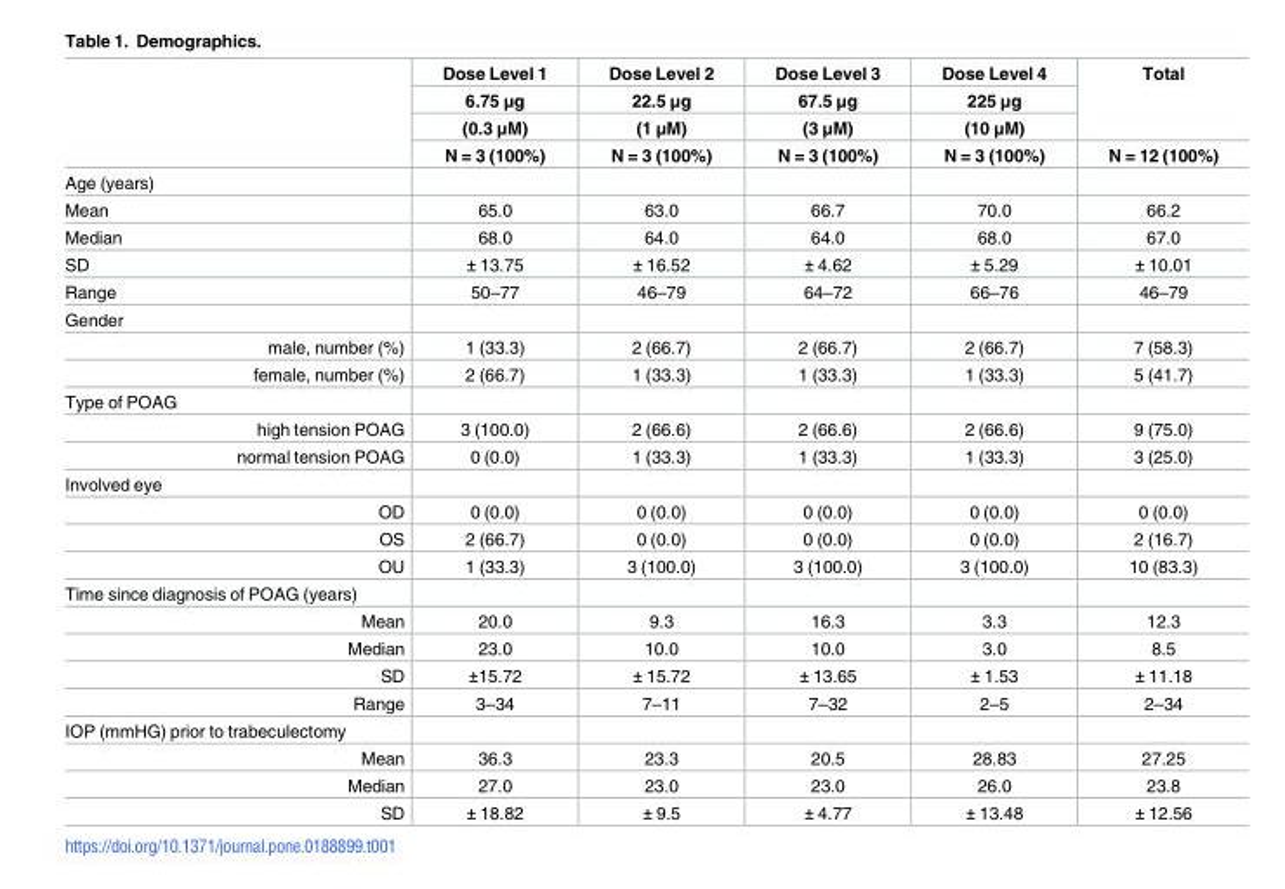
<table><thead><tr><td rowspan="4"></td><td rowspan="4">Dose Level 1 6.75 μg (0.3 μM) N = 3 (100%)</td><td rowspan="4">Dose Level 2 22.5 μg (1 μM) N = 3 (100%)</td><td rowspan="4">Dose Level 3 67.5 μg (3 μM) N = 3 (100%)</td><td rowspan="4">Dose Level 4 225 μg (10 μM) N = 3 (100%)</td><td rowspan="4">Total N = 12 (100%)</td></tr><tr></tr><tr></tr><tr></tr></thead><tbody><tr><td colspan="6">Age (years)</td></tr><tr><td>Mean</td><td>65.0</td><td>63.0</td><td>66.7</td><td>70.0</td><td>66.2</td></tr><tr><td>Median</td><td>68.0</td><td>64.0</td><td>64.0</td><td>68.0</td><td>67.0</td></tr><tr><td>SD</td><td>± 13.75</td><td>± 16.52</td><td>± 4.62</td><td>± 5.29</td><td>± 10.01</td></tr><tr><td>Range</td><td>50–77</td><td>46–79</td><td>64–72</td><td>66–76</td><td>46–79</td></tr><tr><td colspan="6">Gender</td></tr><tr><td>male, number (%)</td><td>1 (33.3)</td><td>2 (66.7)</td><td>2 (66.7)</td><td>2 (66.7)</td><td>7 (58.3)</td></tr><tr><td>female, number (%)</td><td>2 (66.7)</td><td>1 (33.3)</td><td>1 (33.3)</td><td>1 (33.3)</td><td>5 (41.7)</td></tr><tr><td colspan="6">Type of POAG</td></tr><tr><td>high tension POAG</td><td>3 (100.0)</td><td>2 (66.6)</td><td>2 (66.6)</td><td>2 (66.6)</td><td>9 (75.0)</td></tr><tr><td>normal tension POAG</td><td>0 (0.0)</td><td>1 (33.3)</td><td>1 (33.3)</td><td>1 (33.3)</td><td>3 (25.0)</td></tr><tr><td colspan="6">Involved eye</td></tr><tr><td>OD</td><td>0 (0.0)</td><td>0 (0.0)</td><td>0 (0.0)</td><td>0 (0.0)</td><td>0 (0.0)</td></tr><tr><td>OS</td><td>2 (66.7)</td><td>0 (0.0)</td><td>0 (0.0)</td><td>0 (0.0)</td><td>2 (16.7)</td></tr><tr><td>OU</td><td>1 (33.3)</td><td>3 (100.0)</td><td>3 (100.0)</td><td>3 (100.0)</td><td>10 (83.3)</td></tr><tr><td colspan="6">Time since diagnosis of POAG (years)</td></tr><tr><td>Mean</td><td>20.0</td><td>9.3</td><td>16.3</td><td>3.3</td><td>12.3</td></tr><tr><td>Median</td><td>23.0</td><td>10.0</td><td>10.0</td><td>3.0</td><td>8.5</td></tr><tr><td>SD</td><td>±15.72</td><td>± 15.72</td><td>± 13.65</td><td>± 1.53</td><td>± 11.18</td></tr><tr><td>Range</td><td>3–34</td><td>7–11</td><td>7–32</td><td>2–5</td><td>2–34</td></tr><tr><td colspan="6">IOP (mmHG) prior to trabeculectomy</td></tr><tr><td>Mean</td><td>36.3</td><td>23.3</td><td>20.5</td><td>28.83</td><td>27.25</td></tr><tr><td>Median</td><td>27.0</td><td>23.0</td><td>23.0</td><td>26.0</td><td>23.8</td></tr><tr><td>SD</td><td>± 18.82</td><td>± 9.5</td><td>± 4.77</td><td>± 13.48</td><td>± 12.56</td></tr></tbody></table>